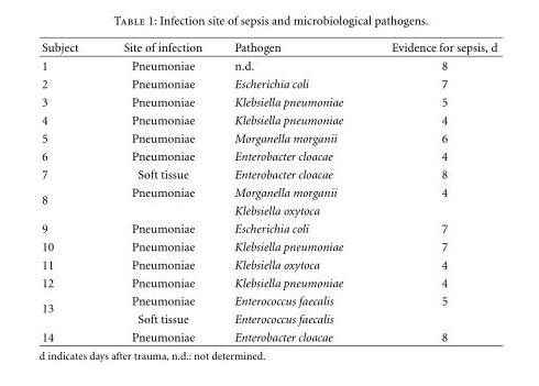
<table><thead><tr><td>Subject</td><td>Site of infection</td><td>Pathogen</td><td>Evidence for sepsis, d</td></tr></thead><tbody><tr><td>1</td><td>Pneumoniae</td><td>n.d.</td><td>8</td></tr><tr><td>2</td><td>Pneumoniae</td><td>Escherichia coli</td><td>7</td></tr><tr><td>3</td><td>Pneumoniae</td><td>Klebsiella pneumoniae</td><td>5</td></tr><tr><td>4</td><td>Pneumoniae</td><td>Klebsiella pneumoniae</td><td>4</td></tr><tr><td>5</td><td>Pneumoniae</td><td>Morganella morganii</td><td>6</td></tr><tr><td>6</td><td>Pneumoniae</td><td>Enterobacter cloacae</td><td>4</td></tr><tr><td>7</td><td>Soft tissue</td><td>Enterobacter cloacae</td><td>8</td></tr><tr><td rowspan="2">8</td><td>Pneumoniae</td><td>Morganella morganii</td><td>4</td></tr><tr><td></td><td>Klebsiella oxytoca</td><td></td></tr><tr><td>9</td><td>Pneumoniae</td><td>Escherichia coli</td><td>7</td></tr><tr><td>10</td><td>Pneumoniae</td><td>Klebsiella pneumoniae</td><td>7</td></tr><tr><td>11</td><td>Pneumoniae</td><td>Klebsiella oxytoca</td><td>4</td></tr><tr><td>12</td><td>Pneumoniae</td><td>Klebsiella pneumoniae</td><td>4</td></tr><tr><td rowspan="2">13</td><td>Pneumoniae</td><td>Enterococcus faecalis</td><td>5</td></tr><tr><td>Soft tissue</td><td>Enterococcus faecalis</td><td></td></tr><tr><td>14</td><td>Pneumoniae</td><td>Enterobacter cloacae</td><td>8</td></tr></tbody></table>